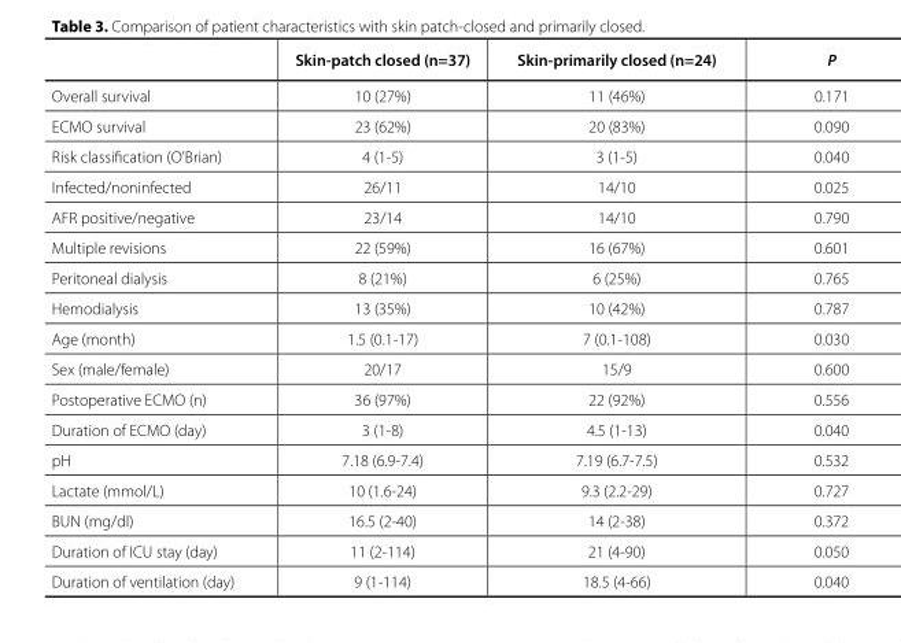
<table><thead><tr><td></td><td>Skin-patch closed (n=37)</td><td>Skin-primarily closed (n=24)</td><td>P</td></tr></thead><tbody><tr><td>Overall survival</td><td>10 (27%)</td><td>11 (46%)</td><td>0.171</td></tr><tr><td>ECMO survival</td><td>23 (62%)</td><td>20 (83%)</td><td>0.090</td></tr><tr><td>Risk classification (O&#x27;Brian)</td><td>4 (1-5)</td><td>3 (1-5)</td><td>0.040</td></tr><tr><td>Infected/noninfected</td><td>26/11</td><td>14/10</td><td>0.025</td></tr><tr><td>AFR positive/negative</td><td>23/14</td><td>14/10</td><td>0.790</td></tr><tr><td>Multiple revisions</td><td>22 (59%)</td><td>16 (67%)</td><td>0.601</td></tr><tr><td>Peritoneal dialysis</td><td>8 (21%)</td><td>6 (25%)</td><td>0.765</td></tr><tr><td>Hemodialysis</td><td>13 (35%)</td><td>10 (42%)</td><td>0.787</td></tr><tr><td>Age (month)</td><td>1.5 (0.1-17)</td><td>7 (0.1-108)</td><td>0.030</td></tr><tr><td>Sex (male/female)</td><td>20/17</td><td>15/9</td><td>0.600</td></tr><tr><td>Postoperative ECMO (n)</td><td>36 (97%)</td><td>22 (92%)</td><td>0.556</td></tr><tr><td>Duration of ECMO (day)</td><td>3 (1-8)</td><td>4.5 (1-13)</td><td>0.040</td></tr><tr><td>pH</td><td>7.18 (6.9-7.4)</td><td>7.19 (6.7-7.5)</td><td>0.532</td></tr><tr><td>Lactate (mmol/L)</td><td>10 (1.6-24)</td><td>9.3 (2.2-29)</td><td>0.727</td></tr><tr><td>BUN (mg/dl)</td><td>16.5 (2-40)</td><td>14 (2-38)</td><td>0.372</td></tr><tr><td>Duration of ICU stay (day)</td><td>11 (2-114)</td><td>21 (4-90)</td><td>0.050</td></tr><tr><td>Duration of ventilation (day)</td><td>9 (1-114)</td><td>18.5 (4-66)</td><td>0.040</td></tr></tbody></table>